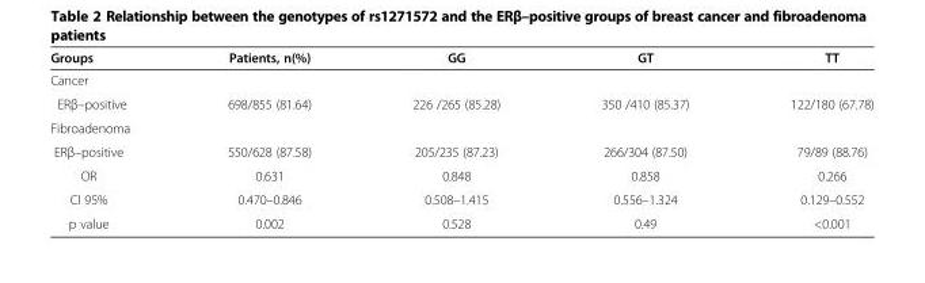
<table><thead><tr><td>Groups</td><td>Patients, n(%)</td><td>GG</td><td>GT</td><td>TT</td></tr></thead><tbody><tr><td colspan="5">Cancer</td></tr><tr><td>ERβ–positive</td><td>698/855 (81.64)</td><td>226 /265 (85.28)</td><td>350 /410 (85.37)</td><td>122/180 (67.78)</td></tr><tr><td colspan="5">Fibroadenoma</td></tr><tr><td>ERβ–positive</td><td>550/628 (87.58)</td><td>205/235 (87.23)</td><td>266/304 (87.50)</td><td>79/89 (88.76)</td></tr><tr><td>OR</td><td>0.631</td><td>0.848</td><td>0.858</td><td>0.266</td></tr><tr><td>CI 95%</td><td>0.470–0.846</td><td>0.508–1.415</td><td>0.556–1.324</td><td>0.129–0.552</td></tr><tr><td>p value</td><td>0.002</td><td>0.528</td><td>0.49</td><td>&lt;0.001</td></tr></tbody></table>